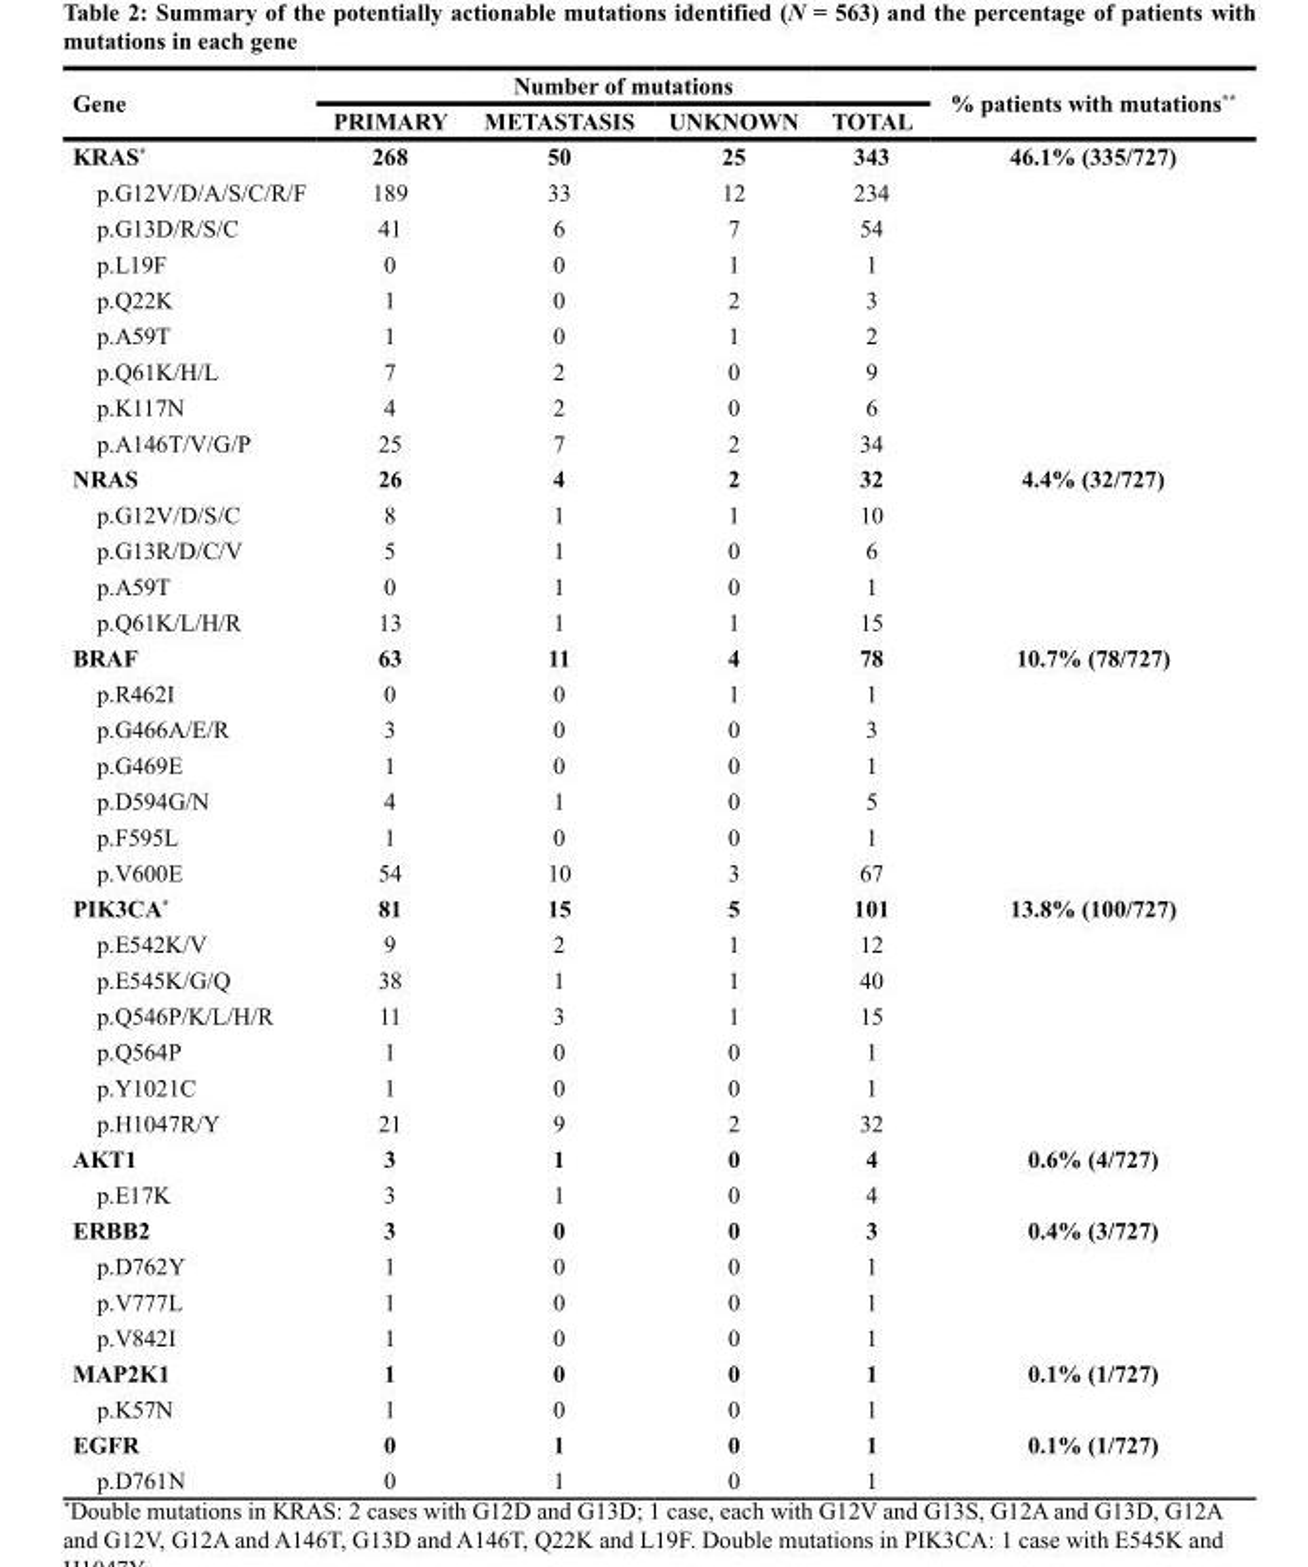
<table><thead><tr><td rowspan="2">Gene</td><td colspan="4">Number of mutations</td><td rowspan="2">% patients with mutations**</td></tr><tr><td>PRIMARY</td><td>METASTASIS</td><td>UNKNOWN</td><td>TOTAL</td></tr></thead><tbody><tr><td>KRAS*</td><td>268</td><td>50</td><td>25</td><td>343</td><td>46.1% (335/727)</td></tr><tr><td>p.G12V/D/A/S/C/R/F</td><td>189</td><td>33</td><td>12</td><td>234</td><td></td></tr><tr><td>p.G13D/R/S/C</td><td>41</td><td>6</td><td>7</td><td>54</td><td></td></tr><tr><td>p.L19F</td><td>0</td><td>0</td><td>1</td><td>1</td><td></td></tr><tr><td>p.Q22K</td><td>1</td><td>0</td><td>2</td><td>3</td><td></td></tr><tr><td>p.A59T</td><td>1</td><td>0</td><td>1</td><td>2</td><td></td></tr><tr><td>p.Q61K/H/L</td><td>7</td><td>2</td><td>0</td><td>9</td><td></td></tr><tr><td>p.K117N</td><td>4</td><td>2</td><td>0</td><td>6</td><td></td></tr><tr><td>p.A146T/V/G/P</td><td>25</td><td>7</td><td>2</td><td>34</td><td></td></tr><tr><td>NRAS</td><td>26</td><td>4</td><td>2</td><td>32</td><td>4.4% (32/727)</td></tr><tr><td>p.G12V/D/S/C</td><td>8</td><td>1</td><td>1</td><td>10</td><td></td></tr><tr><td>p.G13R/D/C/V</td><td>5</td><td>1</td><td>0</td><td>6</td><td></td></tr><tr><td>p.A59T</td><td>0</td><td>1</td><td>0</td><td>1</td><td></td></tr><tr><td>p.Q61K/L/H/R</td><td>13</td><td>1</td><td>1</td><td>15</td><td></td></tr><tr><td>BRAF</td><td>63</td><td>11</td><td>4</td><td>78</td><td>10.7% (78/727)</td></tr><tr><td>p.R462I</td><td>0</td><td>0</td><td>1</td><td>1</td><td></td></tr><tr><td>p.G466A/E/R</td><td>3</td><td>0</td><td>0</td><td>3</td><td></td></tr><tr><td>p.G469E</td><td>1</td><td>0</td><td>0</td><td>1</td><td></td></tr><tr><td>p.D594G/N</td><td>4</td><td>1</td><td>0</td><td>5</td><td></td></tr><tr><td>p.F595L</td><td>1</td><td>0</td><td>0</td><td>1</td><td></td></tr><tr><td>p.V600E</td><td>54</td><td>10</td><td>3</td><td>67</td><td></td></tr><tr><td>PIK3CA*</td><td>81</td><td>15</td><td>5</td><td>101</td><td>13.8% (100/727)</td></tr><tr><td>p.E542K/V</td><td>9</td><td>2</td><td>1</td><td>12</td><td></td></tr><tr><td>p.E545K/G/Q</td><td>38</td><td>1</td><td>1</td><td>40</td><td></td></tr><tr><td>p.Q546P/K/L/H/R</td><td>11</td><td>3</td><td>1</td><td>15</td><td></td></tr><tr><td>p.Q564P</td><td>1</td><td>0</td><td>0</td><td>1</td><td></td></tr><tr><td>p.Y1021C</td><td>1</td><td>0</td><td>0</td><td>1</td><td></td></tr><tr><td>p.H1047R/Y</td><td>21</td><td>9</td><td>2</td><td>32</td><td></td></tr><tr><td>AKT1</td><td>3</td><td>1</td><td>0</td><td>4</td><td>0.6% (4/727)</td></tr><tr><td>p.E17K</td><td>3</td><td>1</td><td>0</td><td>4</td><td></td></tr><tr><td>ERBB2</td><td>3</td><td>0</td><td>0</td><td>3</td><td>0.4% (3/727)</td></tr><tr><td>p.D762Y</td><td>1</td><td>0</td><td>0</td><td>1</td><td></td></tr><tr><td>p.V777L</td><td>1</td><td>0</td><td>0</td><td>1</td><td></td></tr><tr><td>p.V842I</td><td>1</td><td>0</td><td>0</td><td>1</td><td></td></tr><tr><td>MAP2K1</td><td>1</td><td>0</td><td>0</td><td>1</td><td>0.1% (1/727)</td></tr><tr><td>p.K57N</td><td>1</td><td>0</td><td>0</td><td>1</td><td></td></tr><tr><td>EGFR</td><td>0</td><td>1</td><td>0</td><td>1</td><td>0.1% (1/727)</td></tr><tr><td>p.D761N</td><td>0</td><td>1</td><td>0</td><td>1</td><td></td></tr></tbody></table>